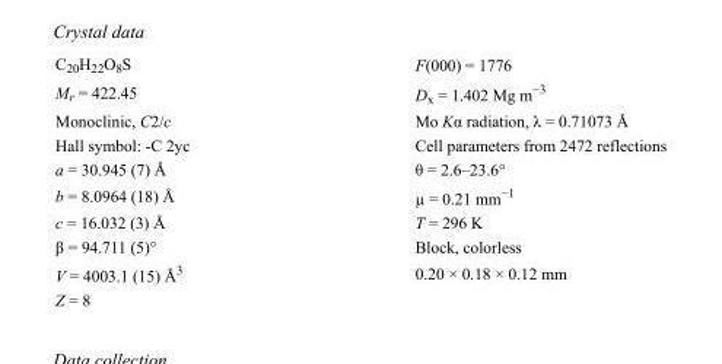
<table><tbody><tr><td>C<sub>20</sub>H<sub>22</sub>O<sub>8</sub>S</td><td>F(000) = 1776</td></tr><tr><td>M<sub>r</sub> = 422.45</td><td>D<sub>x</sub> = 1.402 Mg m<sup>−3</sup></td></tr><tr><td>Monoclinic, C2/c</td><td>Mo Kα radiation, λ = 0.71073 Å</td></tr><tr><td>Hall symbol: -C 2yc</td><td>Cell parameters from 2472 reflections</td></tr><tr><td>a = 30.945 (7) Å</td><td>θ = 2.6–23.6°</td></tr><tr><td>b = 8.0964 (18) Å</td><td>µ = 0.21 mm<sup>−1</sup></td></tr><tr><td>c = 16.032 (3) Å</td><td>T = 296 K</td></tr><tr><td>β = 94.711 (5)°</td><td>Block, colorless</td></tr><tr><td>V = 4003.1 (15) Å<sup>3</sup></td><td>0.20 × 0.18 × 0.12 mm</td></tr><tr><td>Z = 8</td><td></td></tr></tbody></table>